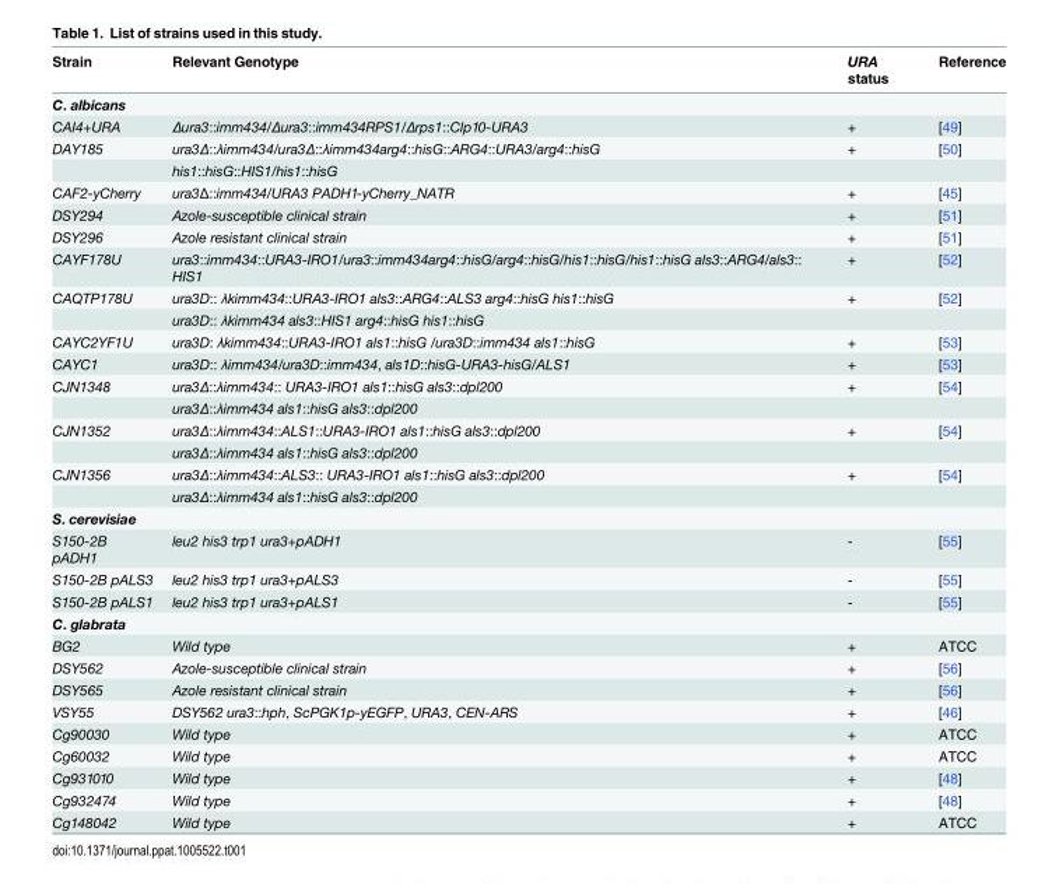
<table><thead><tr><td>Strain</td><td>Relevant Genotype</td><td>URA status</td><td>Reference</td></tr></thead><tbody><tr><td colspan="4">C. albicans</td></tr><tr><td>CAI4+URA</td><td>Δura3::imm434/Δura3::imm434RPS1/Δrps1::Clp10-URA3</td><td>+</td><td>[49]</td></tr><tr><td rowspan="2">DAY185</td><td>ura3Δ::λimm434/ura3Δ::λimm434arg4::hisG::ARG4::URA3/arg4::hisG</td><td>+</td><td>[50]</td></tr><tr><td>his1::hisG::HIS1/his1::hisG</td><td></td><td></td></tr><tr><td>CAF2-yCherry</td><td>ura3Δ::imm434/URA3 PADH1-yCherry_NATR</td><td>+</td><td>[45]</td></tr><tr><td>DSY294</td><td>Azole-susceptible clinical strain</td><td>+</td><td>[51]</td></tr><tr><td>DSY296</td><td>Azole resistant clinical strain</td><td>+</td><td>[51]</td></tr><tr><td>CAYF178U</td><td>ura3::imm434::URA3-IRO1/ura3::imm434arg4::hisG/arg4::hisG/his1::hisG/his1::hisG als3::ARG4/als3:: HIS1</td><td>+</td><td>[52]</td></tr><tr><td rowspan="2">CAQTP178U</td><td>ura3D:: λkimm434::URA3-IRO1 als3::ARG4::ALS3 arg4::hisG his1::hisG</td><td>+</td><td>[52]</td></tr><tr><td>ura3D:: λkimm434 als3::HIS1 arg4::hisG his1::hisG</td><td></td><td></td></tr><tr><td>CAYC2YF1U</td><td>ura3D: λkimm434::URA3-IRO1 als1::hisG /ura3D::imm434 als1::hisG</td><td>+</td><td>[53]</td></tr><tr><td>CAYC1</td><td>ura3D:: λimm434/ura3D::imm434, als1D::hisG-URA3-hisG/ALS1</td><td>+</td><td>[53]</td></tr><tr><td rowspan="2">CJN1348</td><td>ura3Δ::λimm434:: URA3-IRO1 als1::hisG als3::dpl200</td><td>+</td><td>[54]</td></tr><tr><td>ura3Δ::λimm434 als1::hisG als3::dpl200</td><td></td><td></td></tr><tr><td rowspan="2">CJN1352</td><td>ura3Δ::λimm434::ALS1::URA3-IRO1 als1::hisG als3::dpl200</td><td>+</td><td>[54]</td></tr><tr><td>ura3Δ::λimm434 als1::hisG als3::dpl200</td><td></td><td></td></tr><tr><td rowspan="2">CJN1356</td><td>ura3Δ::λimm434::ALS3:: URA3-IRO1 als1::hisG als3::dpl200</td><td>+</td><td>[54]</td></tr><tr><td>ura3Δ::λimm434 als1::hisG als3::dpl200</td><td></td><td></td></tr><tr><td colspan="4">S. cerevisiae</td></tr><tr><td>S150-2B pADH1</td><td>leu2 his3 trp1 ura3+pADH1</td><td>-</td><td>[55]</td></tr><tr><td>S150-2B pALS3</td><td>leu2 his3 trp1 ura3+pALS3</td><td>-</td><td>[55]</td></tr><tr><td>S150-2B pALS1</td><td>leu2 his3 trp1 ura3+pALS1</td><td>-</td><td>[55]</td></tr><tr><td colspan="4">C. glabrata</td></tr><tr><td>BG2</td><td>Wild type</td><td>+</td><td>ATCC</td></tr><tr><td>DSY562</td><td>Azole-susceptible clinical strain</td><td>+</td><td>[56]</td></tr><tr><td>DSY565</td><td>Azole resistant clinical strain</td><td>+</td><td>[56]</td></tr><tr><td>VSY55</td><td>DSY562 ura3::hph, ScPGK1p-yEGFP, URA3, CEN-ARS</td><td>+</td><td>[46]</td></tr><tr><td>Cg90030</td><td>Wild type</td><td>+</td><td>ATCC</td></tr><tr><td>Cg60032</td><td>Wild type</td><td>+</td><td>ATCC</td></tr><tr><td>Cg931010</td><td>Wild type</td><td>+</td><td>[48]</td></tr><tr><td>Cg932474</td><td>Wild type</td><td>+</td><td>[48]</td></tr><tr><td>Cg148042</td><td>Wild type</td><td>+</td><td>ATCC</td></tr></tbody></table>